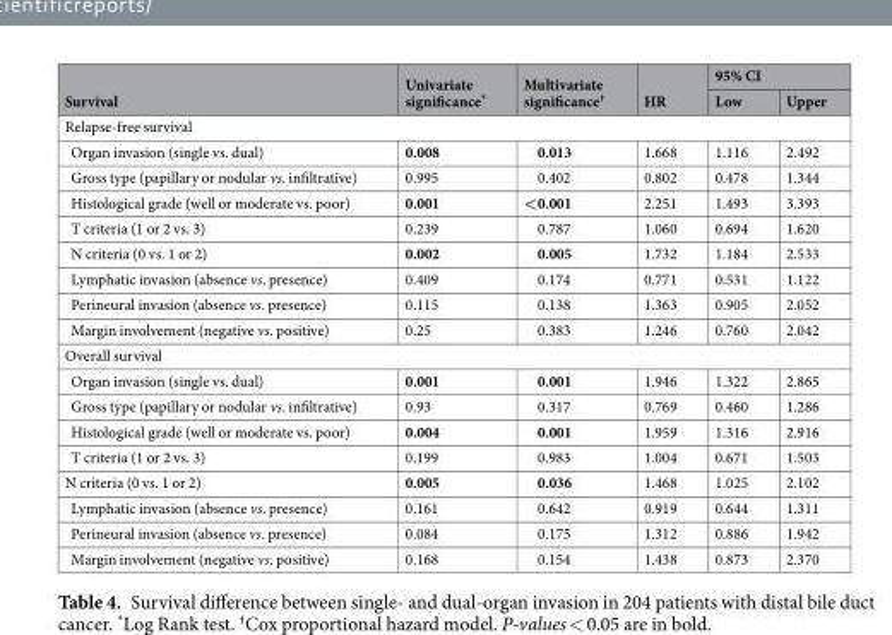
<table><thead><tr><td rowspan="2">Survival</td><td rowspan="2">Univariate significance*</td><td rowspan="2">Multivariate significance<sup>†</sup></td><td rowspan="2">HR</td><td colspan="2">95% CI</td></tr><tr><td>Low</td><td>Upper</td></tr></thead><tbody><tr><td colspan="6">Relapse-free survival</td></tr><tr><td>Organ invasion (single vs. dual)</td><td>0.008</td><td>0.013</td><td>1.668</td><td>1.116</td><td>2.492</td></tr><tr><td>Gross type (papillary or nodular vs. infiltrative)</td><td>0.995</td><td>0.402</td><td>0.802</td><td>0.478</td><td>1.344</td></tr><tr><td>Histological grade (well or moderate vs. poor)</td><td>0.001</td><td>&lt;0.001</td><td>2.251</td><td>1.493</td><td>3.393</td></tr><tr><td>T criteria (1 or 2 vs. 3)</td><td>0.239</td><td>0.787</td><td>1.060</td><td>0.694</td><td>1.620</td></tr><tr><td>N criteria (0 vs. 1 or 2)</td><td>0.002</td><td>0.005</td><td>1.732</td><td>1.184</td><td>2.533</td></tr><tr><td>Lymphatic invasion (absence vs. presence)</td><td>0.409</td><td>0.174</td><td>0.771</td><td>0.531</td><td>1.122</td></tr><tr><td>Perineural invasion (absence vs. presence)</td><td>0.115</td><td>0.138</td><td>1.363</td><td>0.905</td><td>2.052</td></tr><tr><td>Margin involvement (negative vs. positive)</td><td>0.25</td><td>0.383</td><td>1.246</td><td>0.760</td><td>2.042</td></tr><tr><td colspan="6">Overall survival</td></tr><tr><td>Organ invasion (single vs. dual)</td><td>0.001</td><td>0.001</td><td>1.946</td><td>1.322</td><td>2.865</td></tr><tr><td>Gross type (papillary or nodular vs. infiltrative)</td><td>0.93</td><td>0.317</td><td>0.769</td><td>0.460</td><td>1.286</td></tr><tr><td>Histological grade (well or moderate vs. poor)</td><td>0.004</td><td>0.001</td><td>1.959</td><td>1.316</td><td>2.916</td></tr><tr><td>T criteria (1 or 2 vs. 3)</td><td>0.199</td><td>0.983</td><td>1.004</td><td>0.671</td><td>1.503</td></tr><tr><td>N criteria (0 vs. 1 or 2)</td><td>0.005</td><td>0.036</td><td>1.468</td><td>1.025</td><td>2.102</td></tr><tr><td>Lymphatic invasion (absence vs. presence)</td><td>0.161</td><td>0.642</td><td>0.919</td><td>0.644</td><td>1.311</td></tr><tr><td>Perineural invasion (absence vs. presence)</td><td>0.084</td><td>0.175</td><td>1.312</td><td>0.886</td><td>1.942</td></tr><tr><td>Margin involvement (negative vs. positive)</td><td>0.168</td><td>0.154</td><td>1.438</td><td>0.873</td><td>2.370</td></tr></tbody></table>